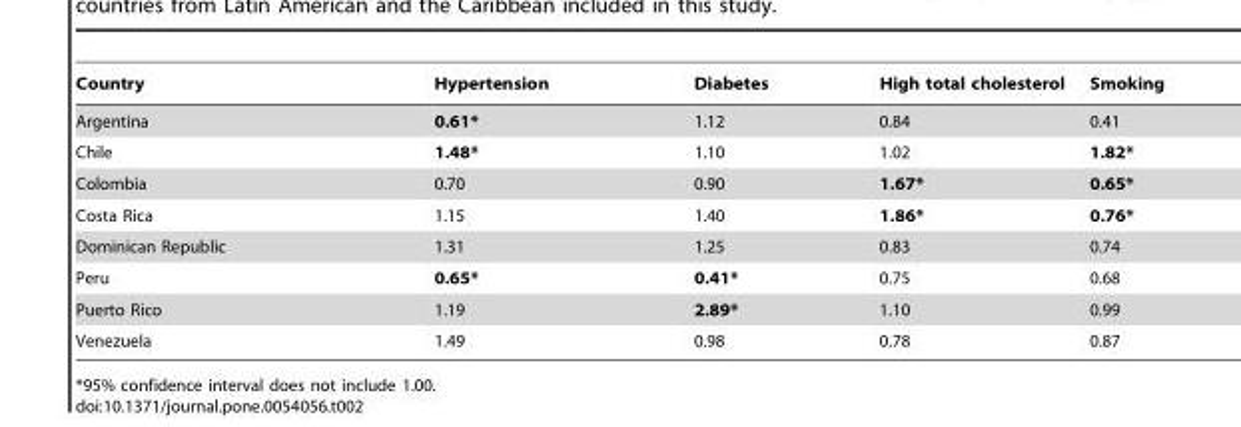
<table><thead><tr><td>Country</td><td>Hypertension</td><td>Diabetes</td><td>High total cholesterol</td><td>Smoking</td></tr></thead><tbody><tr><td>Argentina</td><td>0.61*</td><td>1.12</td><td>0.84</td><td>0.41</td></tr><tr><td>Chile</td><td>1.48*</td><td>1.10</td><td>1.02</td><td>1.82*</td></tr><tr><td>Colombia</td><td>0.70</td><td>0.90</td><td>1.67*</td><td>0.65*</td></tr><tr><td>Costa Rica</td><td>1.15</td><td>1.40</td><td>1.86*</td><td>0.76*</td></tr><tr><td>Dominican Republic</td><td>1.31</td><td>1.25</td><td>0.83</td><td>0.74</td></tr><tr><td>Peru</td><td>0.65*</td><td>0.41*</td><td>0.75</td><td>0.68</td></tr><tr><td>Puerto Rico</td><td>1.19</td><td>2.89*</td><td>1.10</td><td>0.99</td></tr><tr><td>Venezuela</td><td>1.49</td><td>0.98</td><td>0.78</td><td>0.87</td></tr></tbody></table>